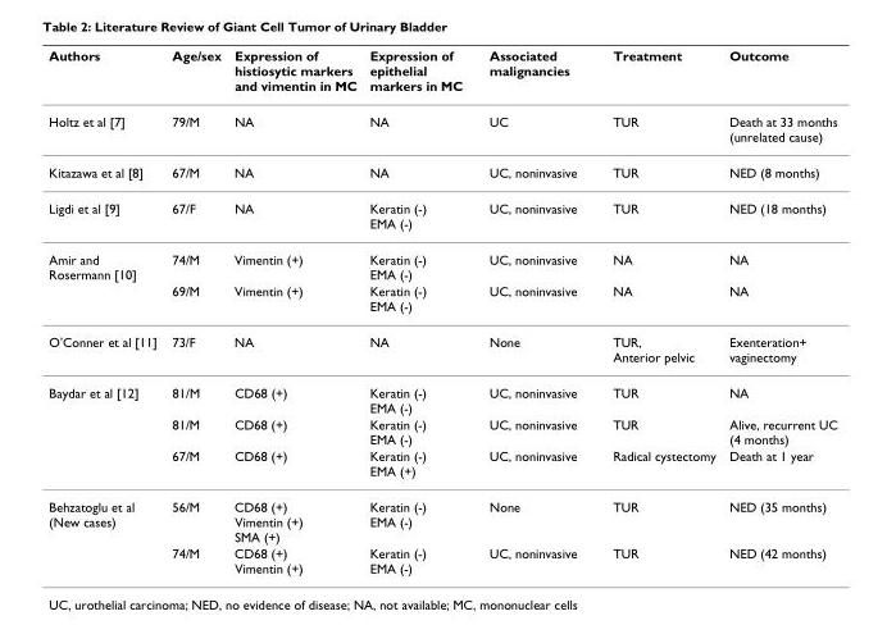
<table><thead><tr><td>Authors</td><td>Age/sex</td><td>Expression of histiosytic markers and vimentin in MC</td><td>Expression of epithelial markers in MC</td><td>Associated malignancies</td><td>Treatment</td><td>Outcome</td></tr></thead><tbody><tr><td>Holtz et al [7]</td><td>79/M</td><td>NA</td><td>NA</td><td>UC</td><td>TUR</td><td>Death at 33 months (unrelated cause)</td></tr><tr><td>Kitazawa et al [8]</td><td>67/M</td><td>NA</td><td>NA</td><td>UC, noninvasive</td><td>TUR</td><td>NED (8 months)</td></tr><tr><td>Ligdi et al [9]</td><td>67/F</td><td>NA</td><td>Keratin (-) EMA (-)</td><td>UC, noninvasive</td><td>TUR</td><td>NED (18 months)</td></tr><tr><td rowspan="2">Amir and Rosermann [10]</td><td>74/M</td><td>Vimentin (+)</td><td>Keratin (-) EMA (-)</td><td>UC, noninvasive</td><td>NA</td><td>NA</td></tr><tr><td>69/M</td><td>Vimentin (+)</td><td>Keratin (-) EMA (-)</td><td>UC, noninvasive</td><td>NA</td><td>NA</td></tr><tr><td>O&#x27;Conner et al [11]</td><td>73/F</td><td>NA</td><td>NA</td><td>None</td><td>TUR, Anterior pelvic</td><td>Exenteration+ vaginectomy</td></tr><tr><td rowspan="3">Baydar et al [12]</td><td>81/M</td><td>CD68 (+)</td><td>Keratin (-) EMA (-)</td><td>UC, noninvasive</td><td>TUR</td><td>NA</td></tr><tr><td>81/M</td><td>CD68 (+)</td><td>Keratin (-) EMA (-)</td><td>UC, noninvasive</td><td>TUR</td><td>Alive, recurrent UC (4 months)</td></tr><tr><td>67/M</td><td>CD68 (+)</td><td>Keratin (-) EMA (+)</td><td>UC, noninvasive</td><td>Radical cystectomy</td><td>Death at 1 year</td></tr><tr><td rowspan="2">Behzatoglu et al (New cases)</td><td>56/M</td><td>CD68 (+) Vimentin (+) SMA (+)</td><td>Keratin (-) EMA (-)</td><td>None</td><td>TUR</td><td>NED (35 months)</td></tr><tr><td>74/M</td><td>CD68 (+) Vimentin (+)</td><td>Keratin (-) EMA (-)</td><td>UC, noninvasive</td><td>TUR</td><td>NED (42 months)</td></tr></tbody></table>